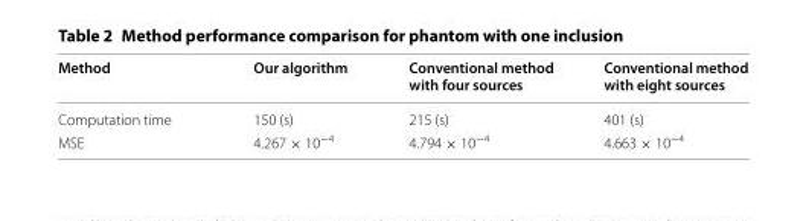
<table><thead><tr><td>Method</td><td>Our algorithm</td><td>Conventional method with four sources</td><td>Conventional method with eight sources</td></tr></thead><tbody><tr><td>Computation time</td><td>150 (s)</td><td>215 (s)</td><td>401 (s)</td></tr><tr><td>MSE</td><td>4.267 × 10<sup>−4</sup></td><td>4.794 × 10<sup>−4</sup></td><td>4.663 × 10<sup>−4</sup></td></tr></tbody></table>